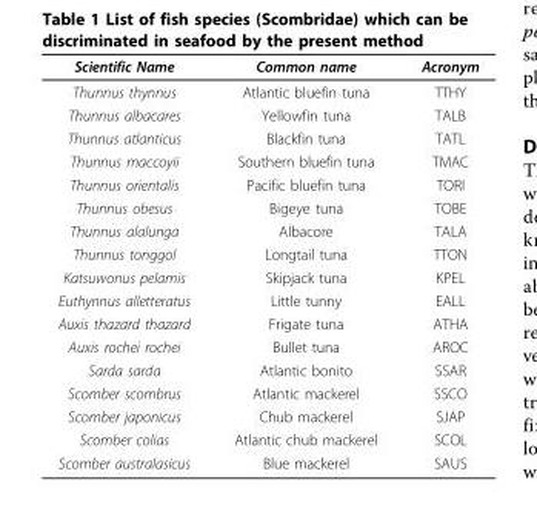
<table><thead><tr><td>Scientific Name</td><td>Common name</td><td>Acronym</td></tr></thead><tbody><tr><td>Thunnus thynnus</td><td>Atlantic bluefin tuna</td><td>TTHY</td></tr><tr><td>Thunnus albacares</td><td>Yellowfin tuna</td><td>TALB</td></tr><tr><td>Thunnus atlanticus</td><td>Blackfin tuna</td><td>TATL</td></tr><tr><td>Thunnus maccoyii</td><td>Southern bluefin tuna</td><td>TMAC</td></tr><tr><td>Thunnus orientalis</td><td>Pacific bluefin tuna</td><td>TORI</td></tr><tr><td>Thunnus obesus</td><td>Bigeye tuna</td><td>TOBE</td></tr><tr><td>Thunnus alalunga</td><td>Albacore</td><td>TALA</td></tr><tr><td>Thunnus tonggol</td><td>Longtail tuna</td><td>TTON</td></tr><tr><td>Katsuwonus pelamis</td><td>Skipjack tuna</td><td>KPEL</td></tr><tr><td>Euthynnus alletteratus</td><td>Little tunny</td><td>EALL</td></tr><tr><td>Auxis thazard thazard</td><td>Frigate tuna</td><td>ATHA</td></tr><tr><td>Auxis rochei rochei</td><td>Bullet tuna</td><td>AROC</td></tr><tr><td>Sarda sarda</td><td>Atlantic bonito</td><td>SSAR</td></tr><tr><td>Scomber scombrus</td><td>Atlantic mackerel</td><td>SSCO</td></tr><tr><td>Scomber japonicus</td><td>Chub mackerel</td><td>SJAP</td></tr><tr><td>Scomber colias</td><td>Atlantic chub mackerel</td><td>SCOL</td></tr><tr><td>Scomber australasicus</td><td>Blue mackerel</td><td>SAUS</td></tr></tbody></table>